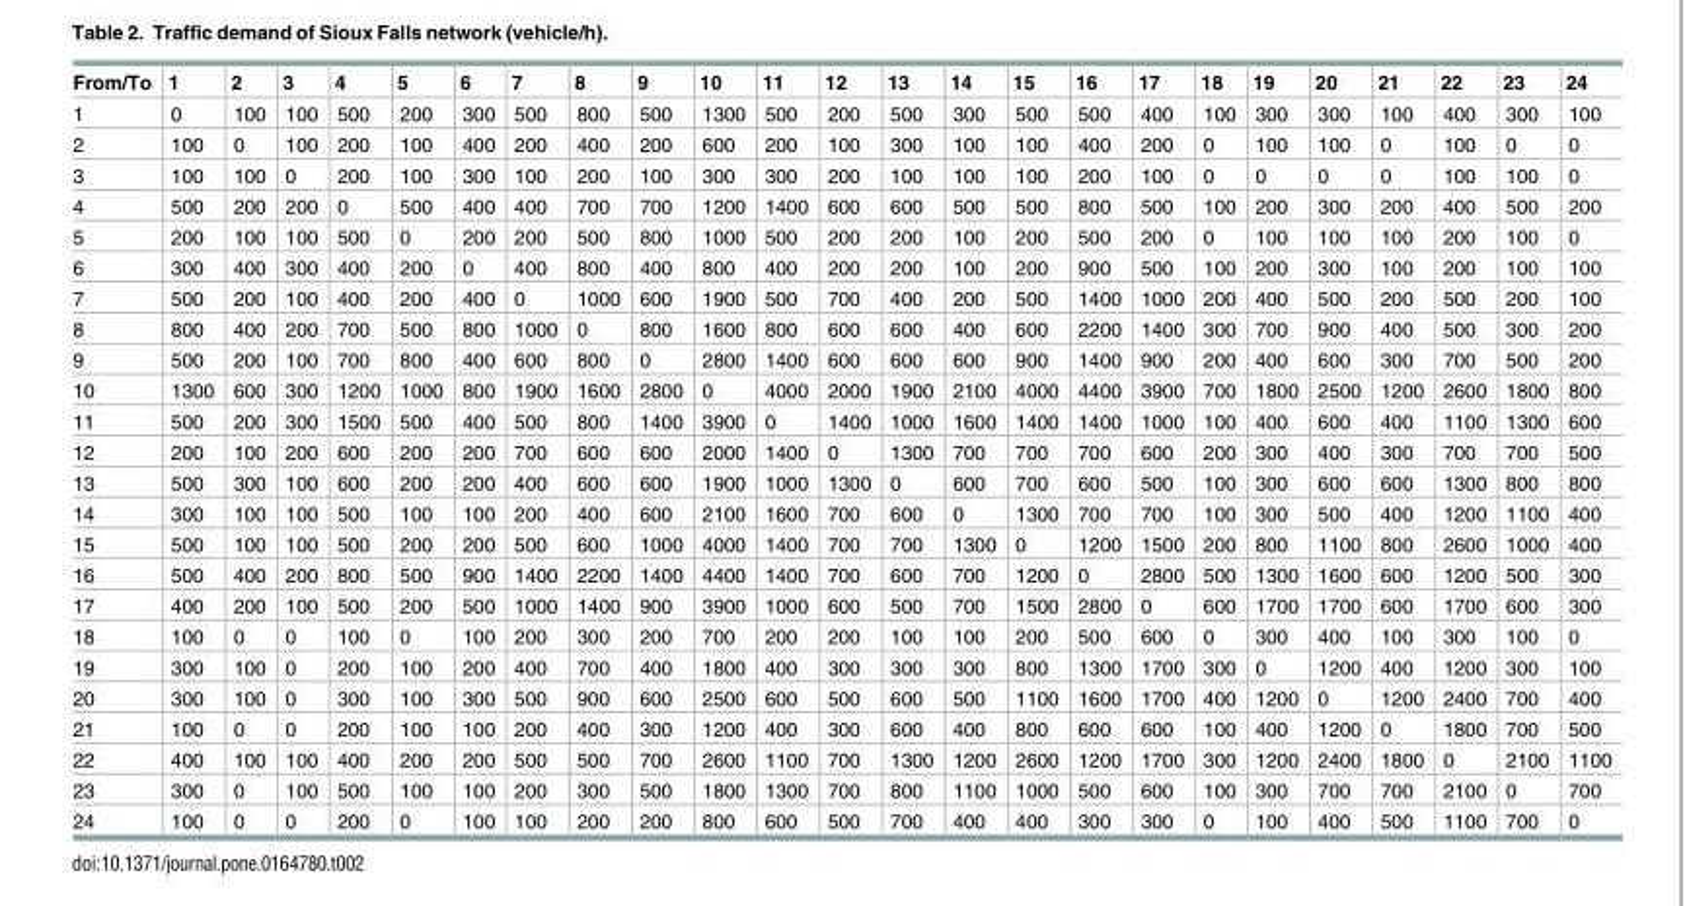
<table><thead><tr><td>From/To</td><td>1</td><td>2</td><td>3</td><td>4</td><td>5</td><td>6</td><td>7</td><td>8</td><td>9</td><td>10</td><td>11</td><td>12</td><td>13</td><td>14</td><td>15</td><td>16</td><td>17</td><td>18</td><td>19</td><td>20</td><td>21</td><td>22</td><td>23</td><td>24</td></tr></thead><tbody><tr><td>1</td><td>0</td><td>100</td><td>100</td><td>500</td><td>200</td><td>300</td><td>500</td><td>800</td><td>500</td><td>1300</td><td>500</td><td>200</td><td>500</td><td>300</td><td>500</td><td>500</td><td>400</td><td>100</td><td>300</td><td>300</td><td>100</td><td>400</td><td>300</td><td>100</td></tr><tr><td>2</td><td>100</td><td>0</td><td>100</td><td>200</td><td>100</td><td>400</td><td>200</td><td>400</td><td>200</td><td>600</td><td>200</td><td>100</td><td>300</td><td>100</td><td>100</td><td>400</td><td>200</td><td>0</td><td>100</td><td>100</td><td>0</td><td>100</td><td>0</td><td>0</td></tr><tr><td>3</td><td>100</td><td>100</td><td>0</td><td>200</td><td>100</td><td>300</td><td>100</td><td>200</td><td>100</td><td>300</td><td>300</td><td>200</td><td>100</td><td>100</td><td>100</td><td>200</td><td>100</td><td>0</td><td>0</td><td>0</td><td>0</td><td>100</td><td>100</td><td>0</td></tr><tr><td>4</td><td>500</td><td>200</td><td>200</td><td>0</td><td>500</td><td>400</td><td>400</td><td>700</td><td>700</td><td>1200</td><td>1400</td><td>600</td><td>600</td><td>500</td><td>500</td><td>800</td><td>500</td><td>100</td><td>200</td><td>300</td><td>200</td><td>400</td><td>500</td><td>200</td></tr><tr><td>5</td><td>200</td><td>100</td><td>100</td><td>500</td><td>0</td><td>200</td><td>200</td><td>500</td><td>800</td><td>1000</td><td>500</td><td>200</td><td>200</td><td>100</td><td>200</td><td>500</td><td>200</td><td>0</td><td>100</td><td>100</td><td>100</td><td>200</td><td>100</td><td>0</td></tr><tr><td>6</td><td>300</td><td>400</td><td>300</td><td>400</td><td>200</td><td>0</td><td>400</td><td>800</td><td>400</td><td>800</td><td>400</td><td>200</td><td>200</td><td>100</td><td>200</td><td>900</td><td>500</td><td>100</td><td>200</td><td>300</td><td>100</td><td>200</td><td>100</td><td>100</td></tr><tr><td>7</td><td>500</td><td>200</td><td>100</td><td>400</td><td>200</td><td>400</td><td>0</td><td>1000</td><td>600</td><td>1900</td><td>500</td><td>700</td><td>400</td><td>200</td><td>500</td><td>1400</td><td>1000</td><td>200</td><td>400</td><td>500</td><td>200</td><td>500</td><td>200</td><td>100</td></tr><tr><td>8</td><td>800</td><td>400</td><td>200</td><td>700</td><td>500</td><td>800</td><td>1000</td><td>0</td><td>800</td><td>1600</td><td>800</td><td>600</td><td>600</td><td>400</td><td>600</td><td>2200</td><td>1400</td><td>300</td><td>700</td><td>900</td><td>400</td><td>500</td><td>300</td><td>200</td></tr><tr><td>9</td><td>500</td><td>200</td><td>100</td><td>700</td><td>800</td><td>400</td><td>600</td><td>800</td><td>0</td><td>2800</td><td>1400</td><td>600</td><td>600</td><td>600</td><td>900</td><td>1400</td><td>900</td><td>200</td><td>400</td><td>600</td><td>300</td><td>700</td><td>500</td><td>200</td></tr><tr><td>10</td><td>1300</td><td>600</td><td>300</td><td>1200</td><td>1000</td><td>800</td><td>1900</td><td>1600</td><td>2800</td><td>0</td><td>4000</td><td>2000</td><td>1900</td><td>2100</td><td>4000</td><td>4400</td><td>3900</td><td>700</td><td>1800</td><td>2500</td><td>1200</td><td>2600</td><td>1800</td><td>800</td></tr><tr><td>11</td><td>500</td><td>200</td><td>300</td><td>1500</td><td>500</td><td>400</td><td>500</td><td>800</td><td>1400</td><td>3900</td><td>0</td><td>1400</td><td>1000</td><td>1600</td><td>1400</td><td>1400</td><td>1000</td><td>100</td><td>400</td><td>600</td><td>400</td><td>1100</td><td>1300</td><td>600</td></tr><tr><td>12</td><td>200</td><td>100</td><td>200</td><td>600</td><td>200</td><td>200</td><td>700</td><td>600</td><td>600</td><td>2000</td><td>1400</td><td>0</td><td>1300</td><td>700</td><td>700</td><td>700</td><td>600</td><td>200</td><td>300</td><td>400</td><td>300</td><td>700</td><td>700</td><td>500</td></tr><tr><td>13</td><td>500</td><td>300</td><td>100</td><td>600</td><td>200</td><td>200</td><td>400</td><td>600</td><td>600</td><td>1900</td><td>1000</td><td>1300</td><td>0</td><td>600</td><td>700</td><td>600</td><td>500</td><td>100</td><td>300</td><td>600</td><td>600</td><td>1300</td><td>800</td><td>800</td></tr><tr><td>14</td><td>300</td><td>100</td><td>100</td><td>500</td><td>100</td><td>100</td><td>200</td><td>400</td><td>600</td><td>2100</td><td>1600</td><td>700</td><td>600</td><td>0</td><td>1300</td><td>700</td><td>700</td><td>100</td><td>300</td><td>500</td><td>400</td><td>1200</td><td>1100</td><td>400</td></tr><tr><td>15</td><td>500</td><td>100</td><td>100</td><td>500</td><td>200</td><td>200</td><td>500</td><td>600</td><td>1000</td><td>4000</td><td>1400</td><td>700</td><td>700</td><td>1300</td><td>0</td><td>1200</td><td>1500</td><td>200</td><td>800</td><td>1100</td><td>800</td><td>2600</td><td>1000</td><td>400</td></tr><tr><td>16</td><td>500</td><td>400</td><td>200</td><td>800</td><td>500</td><td>900</td><td>1400</td><td>2200</td><td>1400</td><td>4400</td><td>1400</td><td>700</td><td>600</td><td>700</td><td>1200</td><td>0</td><td>2800</td><td>500</td><td>1300</td><td>1600</td><td>600</td><td>1200</td><td>500</td><td>300</td></tr><tr><td>17</td><td>400</td><td>200</td><td>100</td><td>500</td><td>200</td><td>500</td><td>1000</td><td>1400</td><td>900</td><td>3900</td><td>1000</td><td>600</td><td>500</td><td>700</td><td>1500</td><td>2800</td><td>0</td><td>600</td><td>1700</td><td>1700</td><td>600</td><td>1700</td><td>600</td><td>300</td></tr><tr><td>18</td><td>100</td><td>0</td><td>0</td><td>100</td><td>0</td><td>100</td><td>200</td><td>300</td><td>200</td><td>700</td><td>200</td><td>200</td><td>100</td><td>100</td><td>200</td><td>500</td><td>600</td><td>0</td><td>300</td><td>400</td><td>100</td><td>300</td><td>100</td><td>0</td></tr><tr><td>19</td><td>300</td><td>100</td><td>0</td><td>200</td><td>100</td><td>200</td><td>400</td><td>700</td><td>400</td><td>1800</td><td>400</td><td>300</td><td>300</td><td>300</td><td>800</td><td>1300</td><td>1700</td><td>300</td><td>0</td><td>1200</td><td>400</td><td>1200</td><td>300</td><td>100</td></tr><tr><td>20</td><td>300</td><td>100</td><td>0</td><td>300</td><td>100</td><td>300</td><td>500</td><td>900</td><td>600</td><td>2500</td><td>600</td><td>500</td><td>600</td><td>500</td><td>1100</td><td>1600</td><td>1700</td><td>400</td><td>1200</td><td>0</td><td>1200</td><td>2400</td><td>700</td><td>400</td></tr><tr><td>21</td><td>100</td><td>0</td><td>0</td><td>200</td><td>100</td><td>100</td><td>200</td><td>400</td><td>300</td><td>1200</td><td>400</td><td>300</td><td>600</td><td>400</td><td>800</td><td>600</td><td>600</td><td>100</td><td>400</td><td>1200</td><td>0</td><td>1800</td><td>700</td><td>500</td></tr><tr><td>22</td><td>400</td><td>100</td><td>100</td><td>400</td><td>200</td><td>200</td><td>500</td><td>500</td><td>700</td><td>2600</td><td>1100</td><td>700</td><td>1300</td><td>1200</td><td>2600</td><td>1200</td><td>1700</td><td>300</td><td>1200</td><td>2400</td><td>1800</td><td>0</td><td>2100</td><td>1100</td></tr><tr><td>23</td><td>300</td><td>0</td><td>100</td><td>500</td><td>100</td><td>100</td><td>200</td><td>300</td><td>500</td><td>1800</td><td>1300</td><td>700</td><td>800</td><td>1100</td><td>1000</td><td>500</td><td>600</td><td>100</td><td>300</td><td>700</td><td>700</td><td>2100</td><td>0</td><td>700</td></tr><tr><td>24</td><td>100</td><td>0</td><td>0</td><td>200</td><td>0</td><td>100</td><td>100</td><td>200</td><td>200</td><td>800</td><td>600</td><td>500</td><td>700</td><td>400</td><td>400</td><td>300</td><td>300</td><td>0</td><td>100</td><td>400</td><td>500</td><td>1100</td><td>700</td><td>0</td></tr></tbody></table>